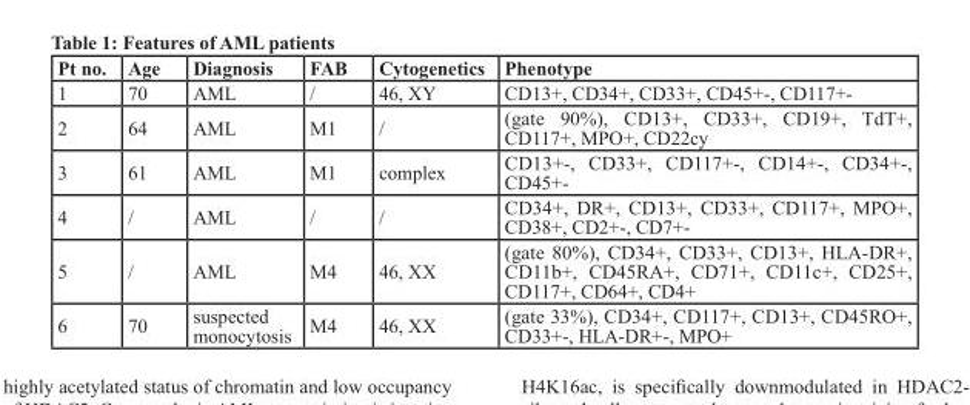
<table><thead><tr><td>Pt no.</td><td>Age</td><td>Diagnosis</td><td>FAB</td><td>Cytogenetics</td><td>Phenotype</td></tr></thead><tbody><tr><td>1</td><td>70</td><td>AML</td><td>/</td><td>46, XY</td><td>CD13+, CD34+, CD33+, CD45+-, CD117+-</td></tr><tr><td>2</td><td>64</td><td>AML</td><td>M1</td><td>/</td><td>(gate 90%), CD13+, CD33+, CD19+, TdT+, CD117+, MPO+, CD22cy</td></tr><tr><td>3</td><td>61</td><td>AML</td><td>M1</td><td>complex</td><td>CD13+-, CD33+, CD117+-, CD14+-, CD34+-, CD45+-</td></tr><tr><td>4</td><td>/</td><td>AML</td><td>/</td><td>/</td><td>CD34+, DR+, CD13+, CD33+, CD117+, MPO+, CD38+, CD2+-, CD7+-</td></tr><tr><td>5</td><td>/</td><td>AML</td><td>M4</td><td>46, XX</td><td>(gate 80%), CD34+, CD33+, CD13+, HLA-DR+, CD11b+, CD45RA+, CD71+, CD11c+, CD25+, CD117+, CD64+, CD4+</td></tr><tr><td>6</td><td>70</td><td>suspected monocytosis</td><td>M4</td><td>46, XX</td><td>(gate 33%), CD34+, CD117+, CD13+, CD45RO+, CD33+-, HLA-DR+-, MPO+</td></tr></tbody></table>